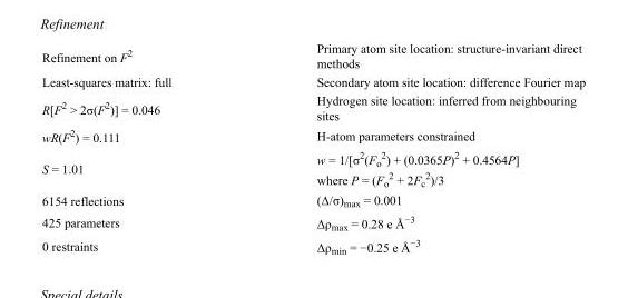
<table><tbody><tr><td>Refinement on F<sup>2</sup></td><td>Primary atom site location: structure-invariant direct methods</td></tr><tr><td>Least-squares matrix: full</td><td>Secondary atom site location: difference Fourier map</td></tr><tr><td>R[F<sup>2</sup> &gt; 2σ(F<sup>2</sup>)] = 0.046</td><td>Hydrogen site location: inferred from neighbouring sites</td></tr><tr><td>wR(F<sup>2</sup>) = 0.111</td><td>H-atom parameters constrained</td></tr><tr><td>S = 1.01</td><td>w = 1/[σ<sup>2</sup>(F<sub>o</sub> <sup>2</sup>) + (0.0365P)<sup>2</sup> + 0.4564P] where P = (F<sub>o</sub> <sup>2</sup> + 2F<sub>c</sub> <sup>2</sup>)/3</td></tr><tr><td>6154 reflections</td><td>(Δ/σ)<sub>max</sub> = 0.001</td></tr><tr><td>425 parameters</td><td>Δρ<sub>max</sub> = 0.28 e Å<sup>−3</sup></td></tr><tr><td>0 restraints</td><td>Δρ<sub>min</sub> = −0.25 e Å<sup>−3</sup></td></tr></tbody></table>